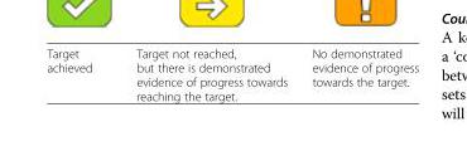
<table><tbody><tr><td>Target achieved</td><td>Target not reached, but there is demonstrated evidence of progress towards reaching the target.</td><td>No demonstrated evidence of progress towards the target.</td></tr></tbody></table>